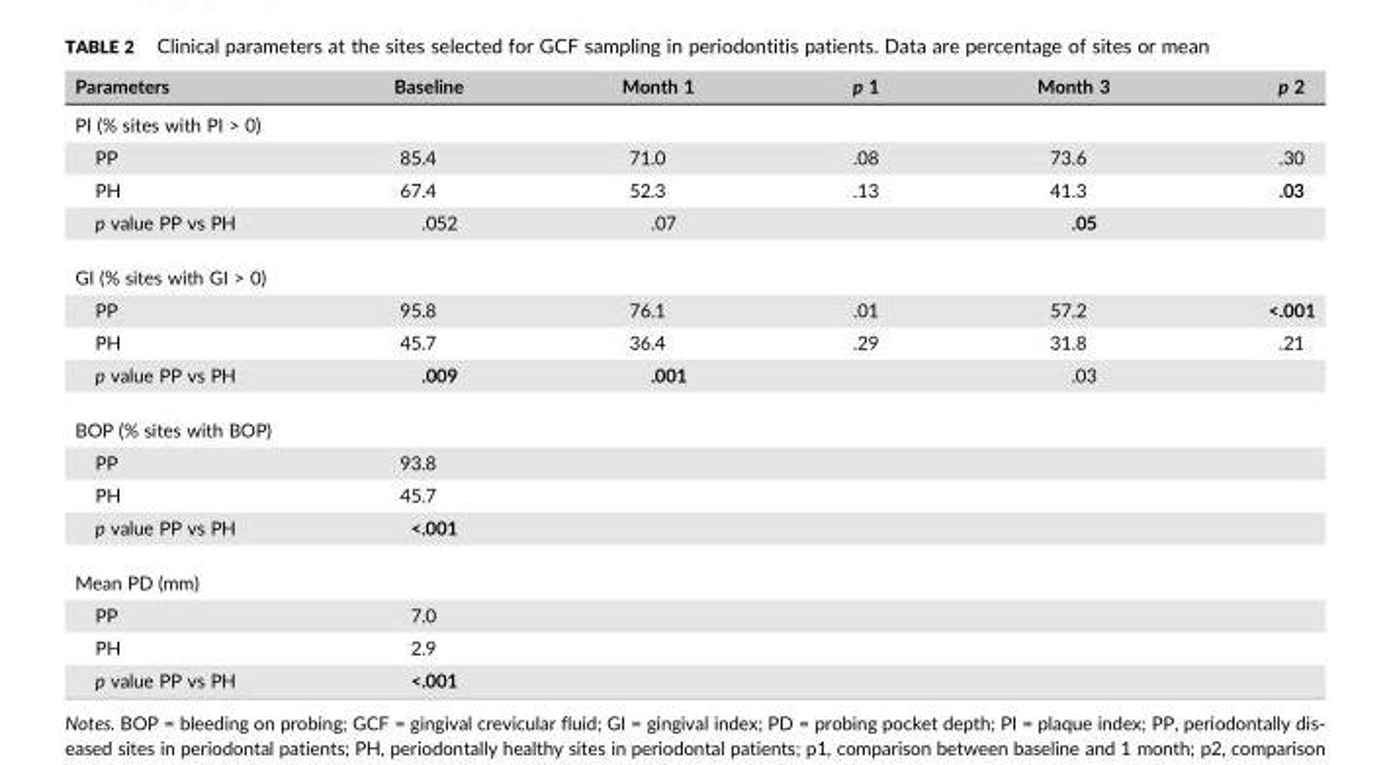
<table><thead><tr><td>Parameters</td><td>Baseline</td><td>Month 1</td><td>p 1</td><td>Month 3</td><td>p 2</td></tr></thead><tbody><tr><td colspan="6">PI (% sites with PI &gt; 0)</td></tr><tr><td>PP</td><td>85.4</td><td>71.0</td><td>.08</td><td>73.6</td><td>.30</td></tr><tr><td>PH</td><td>67.4</td><td>52.3</td><td>.13</td><td>41.3</td><td>.03</td></tr><tr><td>p value PP vs PH</td><td>.052</td><td>.07</td><td></td><td>.05</td><td></td></tr><tr><td colspan="6">GI (% sites with GI &gt; 0)</td></tr><tr><td>PP</td><td>95.8</td><td>76.1</td><td>.01</td><td>57.2</td><td>&lt;.001</td></tr><tr><td>PH</td><td>45.7</td><td>36.4</td><td>.29</td><td>31.8</td><td>.21</td></tr><tr><td>p value PP vs PH</td><td>.009</td><td>.001</td><td></td><td>.03</td><td></td></tr><tr><td colspan="6">BOP (% sites with BOP)</td></tr><tr><td>PP</td><td>93.8</td><td></td><td></td><td></td><td></td></tr><tr><td>PH</td><td>45.7</td><td></td><td></td><td></td><td></td></tr><tr><td>p value PP vs PH</td><td>&lt;.001</td><td></td><td></td><td></td><td></td></tr><tr><td colspan="6">Mean PD (mm)</td></tr><tr><td>PP</td><td>7.0</td><td></td><td></td><td></td><td></td></tr><tr><td>PH</td><td>2.9</td><td></td><td></td><td></td><td></td></tr><tr><td>p value PP vs PH</td><td>&lt;.001</td><td></td><td></td><td></td><td></td></tr></tbody></table>